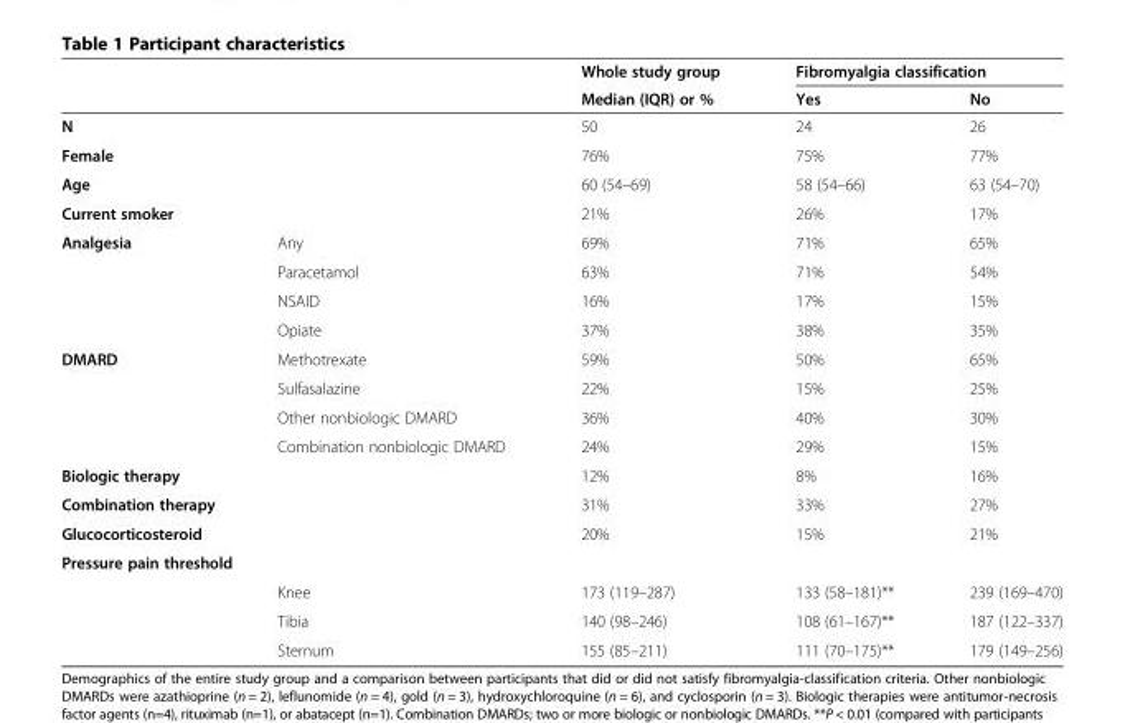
<table><thead><tr><td rowspan="2"></td><td rowspan="2"></td><td rowspan="2">Whole study group Median (IQR) or %</td><td colspan="2">Fibromyalgia classification</td></tr><tr><td>Yes</td><td>No</td></tr></thead><tbody><tr><td>N</td><td></td><td>50</td><td>24</td><td>26</td></tr><tr><td>Female</td><td></td><td>76%</td><td>75%</td><td>77%</td></tr><tr><td>Age</td><td></td><td>60 (54–69)</td><td>58 (54–66)</td><td>63 (54–70)</td></tr><tr><td>Current smoker</td><td></td><td>21%</td><td>26%</td><td>17%</td></tr><tr><td rowspan="4">Analgesia</td><td>Any</td><td>69%</td><td>71%</td><td>65%</td></tr><tr><td>Paracetamol</td><td>63%</td><td>71%</td><td>54%</td></tr><tr><td>NSAID</td><td>16%</td><td>17%</td><td>15%</td></tr><tr><td>Opiate</td><td>37%</td><td>38%</td><td>35%</td></tr><tr><td rowspan="4">DMARD</td><td>Methotrexate</td><td>59%</td><td>50%</td><td>65%</td></tr><tr><td>Sulfasalazine</td><td>22%</td><td>15%</td><td>25%</td></tr><tr><td>Other nonbiologic DMARD</td><td>36%</td><td>40%</td><td>30%</td></tr><tr><td>Combination nonbiologic DMARD</td><td>24%</td><td>29%</td><td>15%</td></tr><tr><td>Biologic therapy</td><td></td><td>12%</td><td>8%</td><td>16%</td></tr><tr><td colspan="2">Combination therapy</td><td>31%</td><td>33%</td><td>27%</td></tr><tr><td>Glucocorticosteroid</td><td></td><td>20%</td><td>15%</td><td>21%</td></tr><tr><td colspan="5">Pressure pain threshold</td></tr><tr><td></td><td>Knee</td><td>173 (119–287)</td><td>133 (58–181)**</td><td>239 (169–470)</td></tr><tr><td></td><td>Tibia</td><td>140 (98–246)</td><td>108 (61–167)**</td><td>187 (122–337)</td></tr><tr><td></td><td>Sternum</td><td>155 (85–211)</td><td>111 (70–175)**</td><td>179 (149–256)</td></tr></tbody></table>